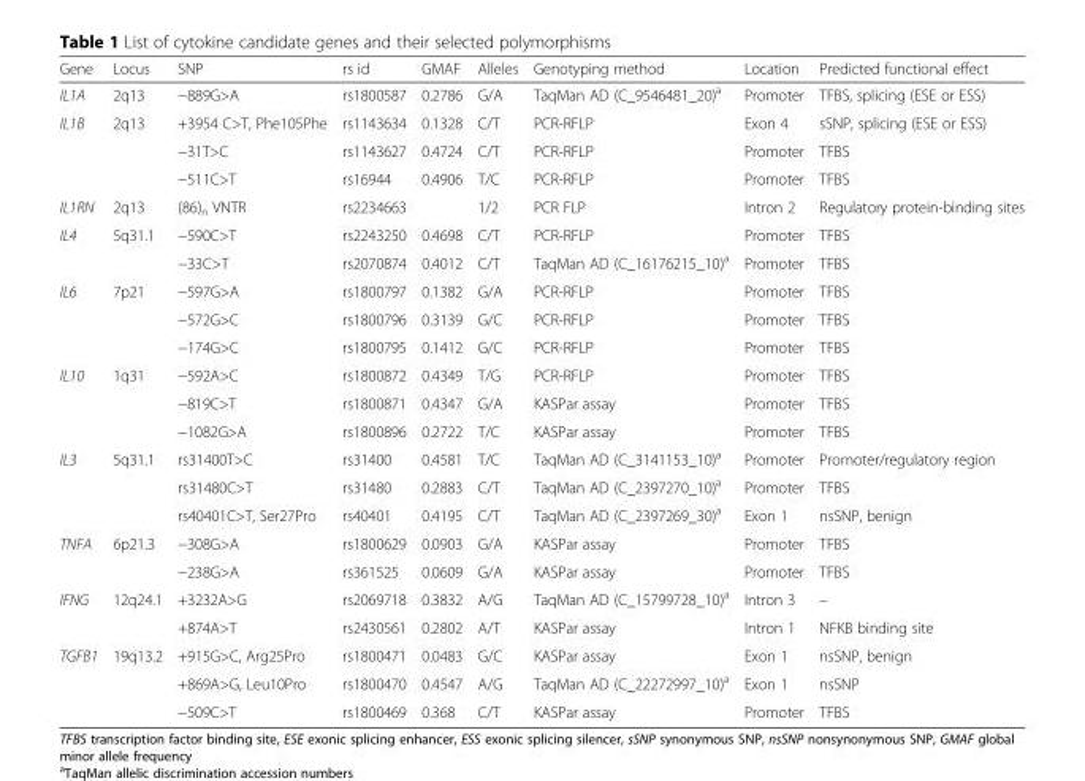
<table><thead><tr><td>Gene</td><td>Locus</td><td>SNP</td><td>rs id</td><td>GMAF</td><td>Alleles</td><td>Genotyping method</td><td>Location</td><td>Predicted functional effect</td></tr></thead><tbody><tr><td>IL1A</td><td>2q13</td><td>−889G&gt;A</td><td>rs1800587</td><td>0.2786</td><td>G/A</td><td>TaqMan AD (C_9546481_20)<sup>a</sup></td><td>Promoter</td><td>TFBS, splicing (ESE or ESS)</td></tr><tr><td rowspan="3">IL1B</td><td>2q13</td><td>+3954 C&gt;T, Phe105Phe</td><td>rs1143634</td><td>0.1328</td><td>C/T</td><td>PCR-RFLP</td><td>Exon 4</td><td>sSNP, splicing (ESE or ESS)</td></tr><tr><td></td><td>−31T&gt;C</td><td>rs1143627</td><td>0.4724</td><td>C/T</td><td>PCR-RFLP</td><td>Promoter</td><td>TFBS</td></tr><tr><td></td><td>−511C&gt;T</td><td>rs16944</td><td>0.4906</td><td>T/C</td><td>PCR-RFLP</td><td>Promoter</td><td>TFBS</td></tr><tr><td>IL1RN</td><td>2q13</td><td>(86)<sub>n</sub> VNTR</td><td>rs2234663</td><td></td><td>1/2</td><td>PCR FLP</td><td>Intron 2</td><td>Regulatory protein-binding sites</td></tr><tr><td rowspan="2">IL4</td><td>5q31.1</td><td>−590C&gt;T</td><td>rs2243250</td><td>0.4698</td><td>C/T</td><td>PCR-RFLP</td><td>Promoter</td><td>TFBS</td></tr><tr><td></td><td>−33C&gt;T</td><td>rs2070874</td><td>0.4012</td><td>C/T</td><td>TaqMan AD (C_16176215_10)<sup>a</sup></td><td>Promoter</td><td>TFBS</td></tr><tr><td rowspan="3">IL6</td><td>7p21</td><td>−597G&gt;A</td><td>rs1800797</td><td>0.1382</td><td>G/A</td><td>PCR-RFLP</td><td>Promoter</td><td>TFBS</td></tr><tr><td></td><td>−572G&gt;C</td><td>rs1800796</td><td>0.3139</td><td>G/C</td><td>PCR-RFLP</td><td>Promoter</td><td>TFBS</td></tr><tr><td></td><td>−174G&gt;C</td><td>rs1800795</td><td>0.1412</td><td>G/C</td><td>PCR-RFLP</td><td>Promoter</td><td>TFBS</td></tr><tr><td rowspan="3">IL10</td><td>1q31</td><td>−592A&gt;C</td><td>rs1800872</td><td>0.4349</td><td>T/G</td><td>PCR-RFLP</td><td>Promoter</td><td>TFBS</td></tr><tr><td></td><td>−819C&gt;T</td><td>rs1800871</td><td>0.4347</td><td>G/A</td><td>KASPar assay</td><td>Promoter</td><td>TFBS</td></tr><tr><td></td><td>−1082G&gt;A</td><td>rs1800896</td><td>0.2722</td><td>T/C</td><td>KASPar assay</td><td>Promoter</td><td>TFBS</td></tr><tr><td rowspan="3">IL3</td><td>5q31.1</td><td>rs31400T&gt;C</td><td>rs31400</td><td>0.4581</td><td>T/C</td><td>TaqMan AD (C_3141153_10)<sup>a</sup></td><td>Promoter</td><td>Promoter/regulatory region</td></tr><tr><td></td><td>rs31480C&gt;T</td><td>rs31480</td><td>0.2883</td><td>C/T</td><td>TaqMan AD (C_2397270_10)<sup>a</sup></td><td>Promoter</td><td>TFBS</td></tr><tr><td></td><td>rs40401C&gt;T, Ser27Pro</td><td>rs40401</td><td>0.4195</td><td>C/T</td><td>TaqMan AD (C_2397269_30)<sup>a</sup></td><td>Exon 1</td><td>nsSNP, benign</td></tr><tr><td rowspan="2">TNFA</td><td>6p21.3</td><td>−308G&gt;A</td><td>rs1800629</td><td>0.0903</td><td>G/A</td><td>KASPar assay</td><td>Promoter</td><td>TFBS</td></tr><tr><td></td><td>−238G&gt;A</td><td>rs361525</td><td>0.0609</td><td>G/A</td><td>KASPar assay</td><td>Promoter</td><td>TFBS</td></tr><tr><td rowspan="2">IFNG</td><td>12q24.1</td><td>+3232A&gt;G</td><td>rs2069718</td><td>0.3832</td><td>A/G</td><td>TaqMan AD (C_15799728_10)<sup>a</sup></td><td>Intron 3</td><td>–</td></tr><tr><td></td><td>+874A&gt;T</td><td>rs2430561</td><td>0.2802</td><td>A/T</td><td>KASPar assay</td><td>Intron 1</td><td>NFKB binding site</td></tr><tr><td rowspan="3">TGFB1</td><td>19q13.2</td><td>+915G&gt;C, Arg25Pro</td><td>rs1800471</td><td>0.0483</td><td>G/C</td><td>KASPar assay</td><td>Exon 1</td><td>nsSNP, benign</td></tr><tr><td></td><td>+869A&gt;G, Leu10Pro</td><td>rs1800470</td><td>0.4547</td><td>A/G</td><td>TaqMan AD (C_22272997_10)<sup>a</sup></td><td>Exon 1</td><td>nsSNP</td></tr><tr><td></td><td>−509C&gt;T</td><td>rs1800469</td><td>0.368</td><td>C/T</td><td>KASPar assay</td><td>Promoter</td><td>TFBS</td></tr></tbody></table>